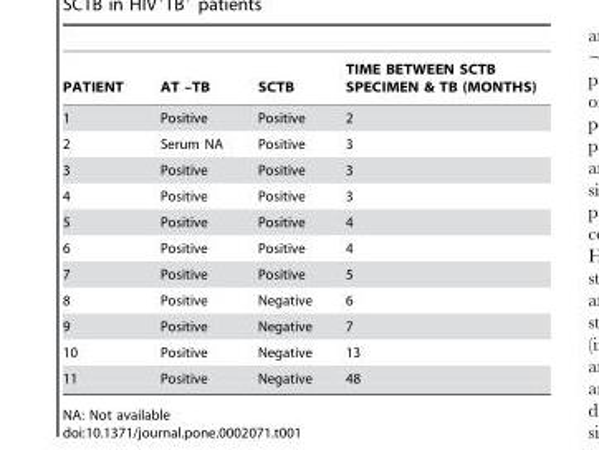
<table><thead><tr><td>PATIENT</td><td>AT –TB</td><td>SCTB</td><td>TIME BETWEEN SCTB SPECIMEN &amp; TB (MONTHS)</td></tr></thead><tbody><tr><td>1</td><td>Positive</td><td>Positive</td><td>2</td></tr><tr><td>2</td><td>Serum NA</td><td>Positive</td><td>3</td></tr><tr><td>3</td><td>Positive</td><td>Positive</td><td>3</td></tr><tr><td>4</td><td>Positive</td><td>Positive</td><td>3</td></tr><tr><td>5</td><td>Positive</td><td>Positive</td><td>4</td></tr><tr><td>6</td><td>Positive</td><td>Positive</td><td>4</td></tr><tr><td>7</td><td>Positive</td><td>Positive</td><td>5</td></tr><tr><td>8</td><td>Positive</td><td>Negative</td><td>6</td></tr><tr><td>9</td><td>Positive</td><td>Negative</td><td>7</td></tr><tr><td>10</td><td>Positive</td><td>Negative</td><td>13</td></tr><tr><td>11</td><td>Positive</td><td>Negative</td><td>48</td></tr></tbody></table>